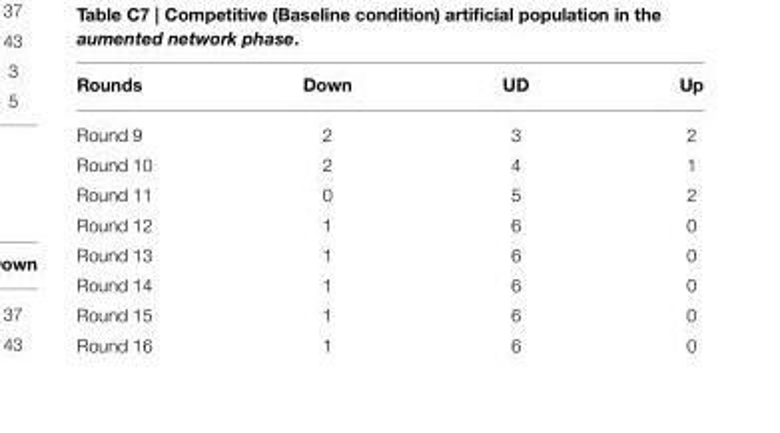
<table><thead><tr><td>Rounds</td><td>Down</td><td>UD</td><td>Up</td></tr></thead><tbody><tr><td>Round 9</td><td>2</td><td>3</td><td>2</td></tr><tr><td>Round 10</td><td>2</td><td>4</td><td>1</td></tr><tr><td>Round 11</td><td>0</td><td>5</td><td>2</td></tr><tr><td>Round 12</td><td>1</td><td>6</td><td>0</td></tr><tr><td>Round 13</td><td>1</td><td>6</td><td>0</td></tr><tr><td>Round 14</td><td>1</td><td>6</td><td>0</td></tr><tr><td>Round 15</td><td>1</td><td>6</td><td>0</td></tr><tr><td>Round 16</td><td>1</td><td>6</td><td>0</td></tr></tbody></table>